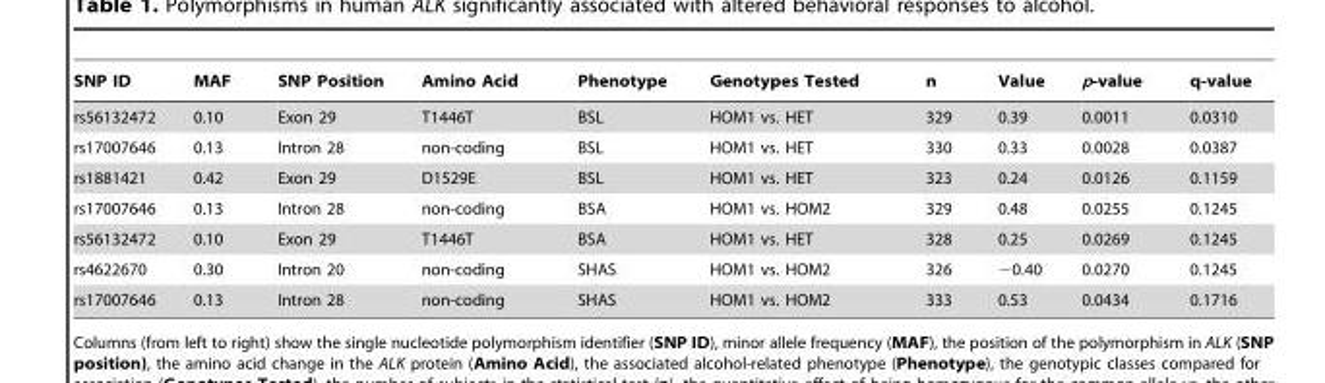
<table><thead><tr><td>SNP ID</td><td>MAF</td><td>SNP Position</td><td>Amino Acid</td><td>Phenotype</td><td>Genotypes Tested</td><td>n</td><td>Value</td><td>p-value</td><td>q-value</td></tr></thead><tbody><tr><td>rs56132472</td><td>0.10</td><td>Exon 29</td><td>T1446T</td><td>BSL</td><td>HOM1 vs. HET</td><td>329</td><td>0.39</td><td>0.0011</td><td>0.0310</td></tr><tr><td>rs17007646</td><td>0.13</td><td>Intron 28</td><td>non-coding</td><td>BSL</td><td>HOM1 vs. HET</td><td>330</td><td>0.33</td><td>0.0028</td><td>0.0387</td></tr><tr><td>rs1881421</td><td>0.42</td><td>Exon 29</td><td>D1529E</td><td>BSL</td><td>HOM1 vs. HET</td><td>323</td><td>0.24</td><td>0.0126</td><td>0.1159</td></tr><tr><td>rs17007646</td><td>0.13</td><td>Intron 28</td><td>non-coding</td><td>BSA</td><td>HOM1 vs. HOM2</td><td>329</td><td>0.48</td><td>0.0255</td><td>0.1245</td></tr><tr><td>rs56132472</td><td>0.10</td><td>Exon 29</td><td>T1446T</td><td>BSA</td><td>HOM1 vs. HET</td><td>328</td><td>0.25</td><td>0.0269</td><td>0.1245</td></tr><tr><td>rs4622670</td><td>0.30</td><td>Intron 20</td><td>non-coding</td><td>SHAS</td><td>HOM1 vs. HOM2</td><td>326</td><td>−0.40</td><td>0.0270</td><td>0.1245</td></tr><tr><td>rs17007646</td><td>0.13</td><td>Intron 28</td><td>non-coding</td><td>SHAS</td><td>HOM1 vs. HOM2</td><td>333</td><td>0.53</td><td>0.0434</td><td>0.1716</td></tr></tbody></table>